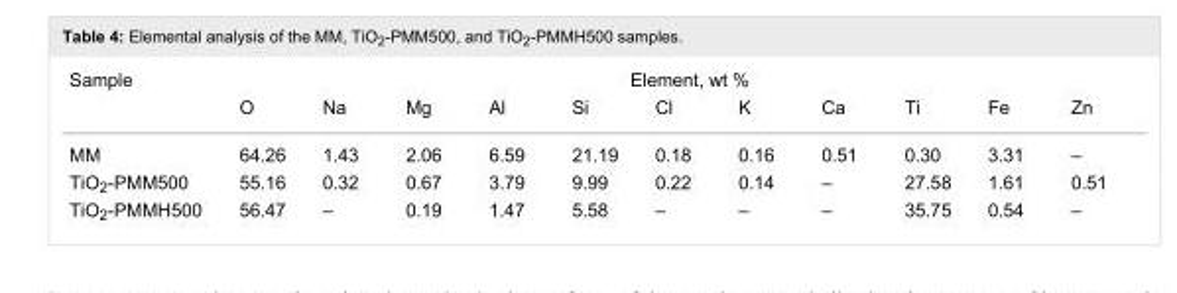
<table><tbody><tr><td rowspan="2">Sample</td><td colspan="11">Element, wt %</td></tr><tr><td>O</td><td>Na</td><td>Mg</td><td>Al</td><td>Si</td><td>Cl</td><td>K</td><td>Ca</td><td>Ti</td><td>Fe</td><td>Zn</td></tr><tr><td>MM</td><td>64.26</td><td>1.43</td><td>2.06</td><td>6.59</td><td>21.19</td><td>0.18</td><td>0.16</td><td>0.51</td><td>0.30</td><td>3.31</td><td>–</td></tr><tr><td>TiO<sub>2</sub>-PMM500</td><td>55.16</td><td>0.32</td><td>0.67</td><td>3.79</td><td>9.99</td><td>0.22</td><td>0.14</td><td>–</td><td>27.58</td><td>1.61</td><td>0.51</td></tr><tr><td>TiO<sub>2</sub>-PMMН500</td><td>56.47</td><td>–</td><td>0.19</td><td>1.47</td><td>5.58</td><td>–</td><td>–</td><td>–</td><td>35.75</td><td>0.54</td><td>–</td></tr></tbody></table>